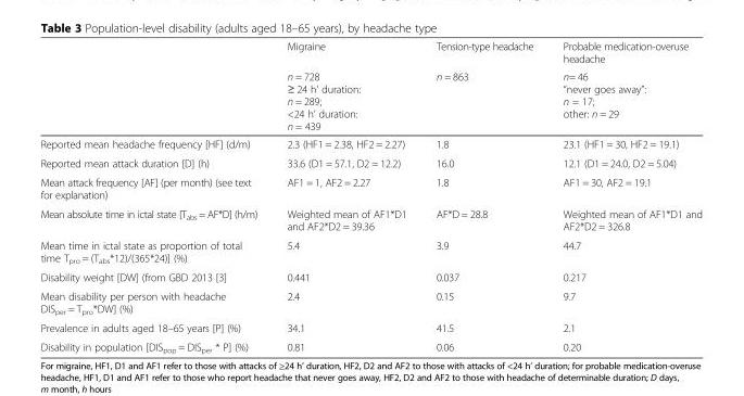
<table><thead><tr><td rowspan="2"></td><td rowspan="2">Migraine n = 728 ≥ 24 h’ duration: n = 289; &lt;24 h’ duration: n = 439</td><td rowspan="2">Tension-type headache n = 863</td><td rowspan="2">Probable medication-overuse headache n= 46 “never goes away”: n = 17; other: n = 29</td></tr><tr></tr></thead><tbody><tr><td>Reported mean headache frequency [HF] (d/m)</td><td>2.3 (HF1 = 2.38, HF2 = 2.27)</td><td>1.8</td><td>23.1 (HF1 = 30, HF2 = 19.1)</td></tr><tr><td>Reported mean attack duration [D] (h)</td><td>33.6 (D1 = 57.1, D2 = 12.2)</td><td>16.0</td><td>12.1 (D1 = 24.0, D2 = 5.04)</td></tr><tr><td>Mean attack frequency [AF] (per month) (see text for explanation)</td><td>AF1 = 1, AF2 = 2.27</td><td>1.8</td><td>AF1 = 30, AF2 = 19.1</td></tr><tr><td>Mean absolute time in ictal state [T<sub>abs</sub> = AF*D] (h/m)</td><td>Weighted mean of AF1*D1 and AF2*D2 = 39.36</td><td>AF*D = 28.8</td><td>Weighted mean of AF1*D1 and AF2*D2 = 326.8</td></tr><tr><td>Mean time in ictal state as proportion of total time T<sub>pro</sub> = (T<sub>abs</sub>*12)/(365*24)] (%)</td><td>5.4</td><td>3.9</td><td>44.7</td></tr><tr><td>Disability weight [DW] (from GBD 2013 [3]</td><td>0.441</td><td>0.037</td><td>0.217</td></tr><tr><td>Mean disability per person with headache DIS<sub>per</sub> = T<sub>pro</sub>*DW] (%)</td><td>2.4</td><td>0.15</td><td>9.7</td></tr><tr><td>Prevalence in adults aged 18–65 years [P] (%)</td><td>34.1</td><td>41.5</td><td>2.1</td></tr><tr><td>Disability in population [DIS<sub>pop</sub> = DIS<sub>per</sub> * P] (%)</td><td>0.81</td><td>0.06</td><td>0.20</td></tr></tbody></table>